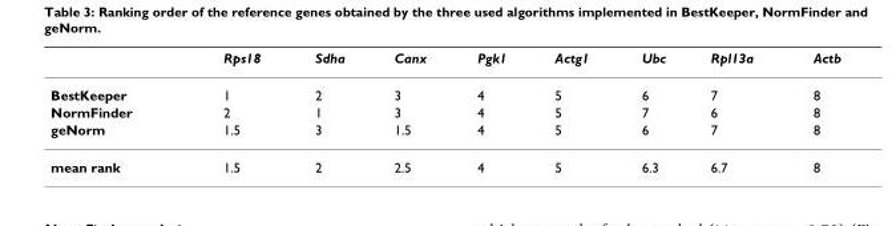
<table><thead><tr><td></td><td>Rps18</td><td>Sdha</td><td>Canx</td><td>Pgk1</td><td>Actg1</td><td>Ubc</td><td>Rpl13a</td><td>Actb</td></tr></thead><tbody><tr><td>BestKeeper</td><td>1</td><td>2</td><td>3</td><td>4</td><td>5</td><td>6</td><td>7</td><td>8</td></tr><tr><td>NormFinder</td><td>2</td><td>1</td><td>3</td><td>4</td><td>5</td><td>7</td><td>6</td><td>8</td></tr><tr><td>geNorm</td><td>1.5</td><td>3</td><td>1.5</td><td>4</td><td>5</td><td>6</td><td>7</td><td>8</td></tr><tr><td>mean rank</td><td>1.5</td><td>2</td><td>2.5</td><td>4</td><td>5</td><td>6.3</td><td>6.7</td><td>8</td></tr></tbody></table>